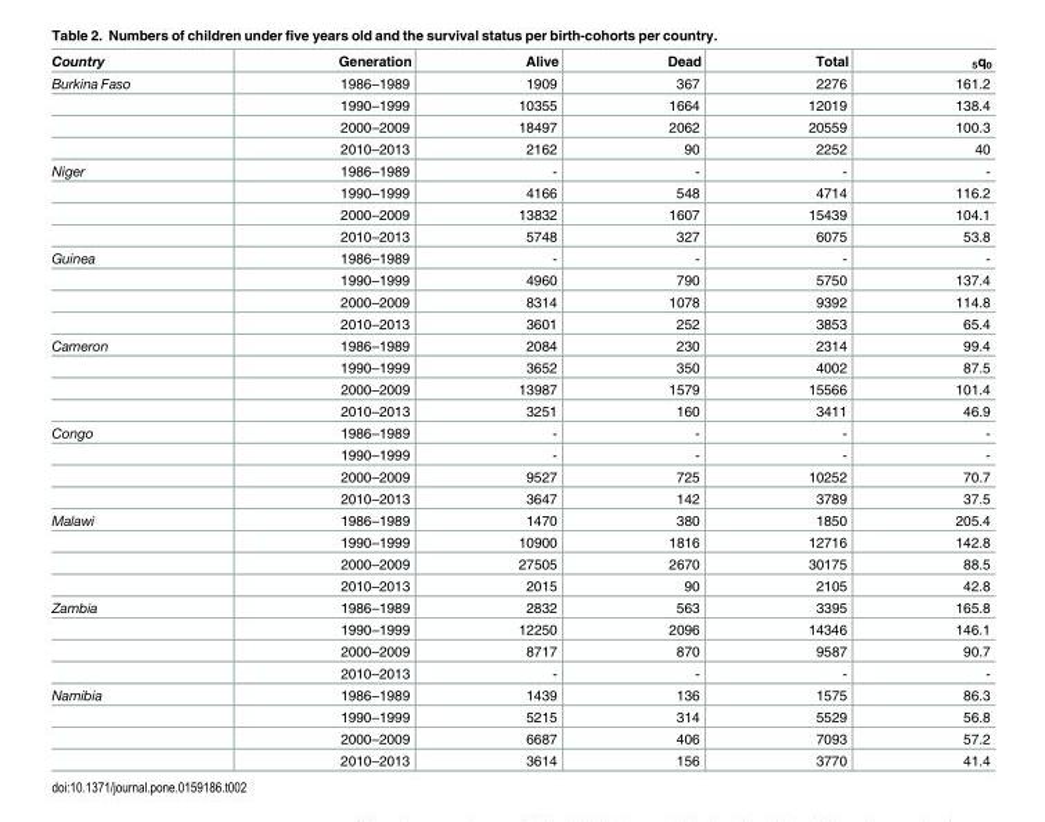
<table><thead><tr><td>Country</td><td>Generation</td><td>Alive</td><td>Dead</td><td>Total</td><td><sub>5</sub>q<sub>0</sub></td></tr></thead><tbody><tr><td rowspan="4">Burkina Faso</td><td>1986–1989</td><td>1909</td><td>367</td><td>2276</td><td>161.2</td></tr><tr><td>1990–1999</td><td>10355</td><td>1664</td><td>12019</td><td>138.4</td></tr><tr><td>2000–2009</td><td>18497</td><td>2062</td><td>20559</td><td>100.3</td></tr><tr><td>2010–2013</td><td>2162</td><td>90</td><td>2252</td><td>40</td></tr><tr><td rowspan="4">Niger</td><td>1986–1989</td><td>-</td><td>-</td><td>-</td><td>-</td></tr><tr><td>1990–1999</td><td>4166</td><td>548</td><td>4714</td><td>116.2</td></tr><tr><td>2000–2009</td><td>13832</td><td>1607</td><td>15439</td><td>104.1</td></tr><tr><td>2010–2013</td><td>5748</td><td>327</td><td>6075</td><td>53.8</td></tr><tr><td rowspan="4">Guinea</td><td>1986–1989</td><td>-</td><td>-</td><td>-</td><td>-</td></tr><tr><td>1990–1999</td><td>4960</td><td>790</td><td>5750</td><td>137.4</td></tr><tr><td>2000–2009</td><td>8314</td><td>1078</td><td>9392</td><td>114.8</td></tr><tr><td>2010–2013</td><td>3601</td><td>252</td><td>3853</td><td>65.4</td></tr><tr><td rowspan="4">Cameron</td><td>1986–1989</td><td>2084</td><td>230</td><td>2314</td><td>99.4</td></tr><tr><td>1990–1999</td><td>3652</td><td>350</td><td>4002</td><td>87.5</td></tr><tr><td>2000–2009</td><td>13987</td><td>1579</td><td>15566</td><td>101.4</td></tr><tr><td>2010–2013</td><td>3251</td><td>160</td><td>3411</td><td>46.9</td></tr><tr><td rowspan="4">Congo</td><td>1986–1989</td><td>-</td><td>-</td><td>-</td><td>-</td></tr><tr><td>1990–1999</td><td>-</td><td>-</td><td>-</td><td>-</td></tr><tr><td>2000–2009</td><td>9527</td><td>725</td><td>10252</td><td>70.7</td></tr><tr><td>2010–2013</td><td>3647</td><td>142</td><td>3789</td><td>37.5</td></tr><tr><td rowspan="4">Malawi</td><td>1986–1989</td><td>1470</td><td>380</td><td>1850</td><td>205.4</td></tr><tr><td>1990–1999</td><td>10900</td><td>1816</td><td>12716</td><td>142.8</td></tr><tr><td>2000–2009</td><td>27505</td><td>2670</td><td>30175</td><td>88.5</td></tr><tr><td>2010–2013</td><td>2015</td><td>90</td><td>2105</td><td>42.8</td></tr><tr><td rowspan="4">Zambia</td><td>1986–1989</td><td>2832</td><td>563</td><td>3395</td><td>165.8</td></tr><tr><td>1990–1999</td><td>12250</td><td>2096</td><td>14346</td><td>146.1</td></tr><tr><td>2000–2009</td><td>8717</td><td>870</td><td>9587</td><td>90.7</td></tr><tr><td>2010–2013</td><td>-</td><td>-</td><td>-</td><td>-</td></tr><tr><td rowspan="4">Namibia</td><td>1986–1989</td><td>1439</td><td>136</td><td>1575</td><td>86.3</td></tr><tr><td>1990–1999</td><td>5215</td><td>314</td><td>5529</td><td>56.8</td></tr><tr><td>2000–2009</td><td>6687</td><td>406</td><td>7093</td><td>57.2</td></tr><tr><td>2010–2013</td><td>3614</td><td>156</td><td>3770</td><td>41.4</td></tr></tbody></table>